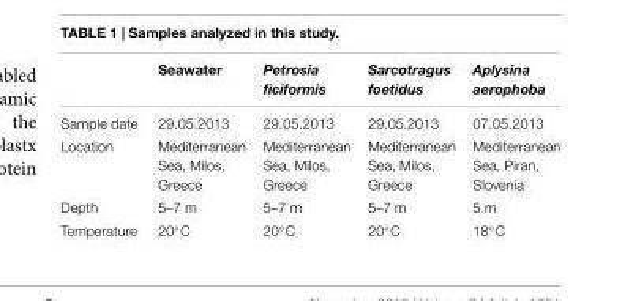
<table><thead><tr><td></td><td>Seawater</td><td>Petrosia ficiformis</td><td>Sarcotragus foetidus</td><td>Aplysina aerophoba</td></tr></thead><tbody><tr><td>Sample date</td><td>29.05.2013</td><td>29.05.2013</td><td>29.05.2013</td><td>07.05.2013</td></tr><tr><td>Location</td><td>Mediterranean Sea, Milos, Greece</td><td>Mediterranean Sea, Milos, Greece</td><td>Mediterranean Sea, Milos, Greece</td><td>Mediterranean Sea, Piran, Slovenia</td></tr><tr><td>Depth</td><td>5–7 m</td><td>5–7 m</td><td>5–7 m</td><td>5 m</td></tr><tr><td>Temperature</td><td>20◦C</td><td>20◦C</td><td>20◦C</td><td>18◦C</td></tr></tbody></table>